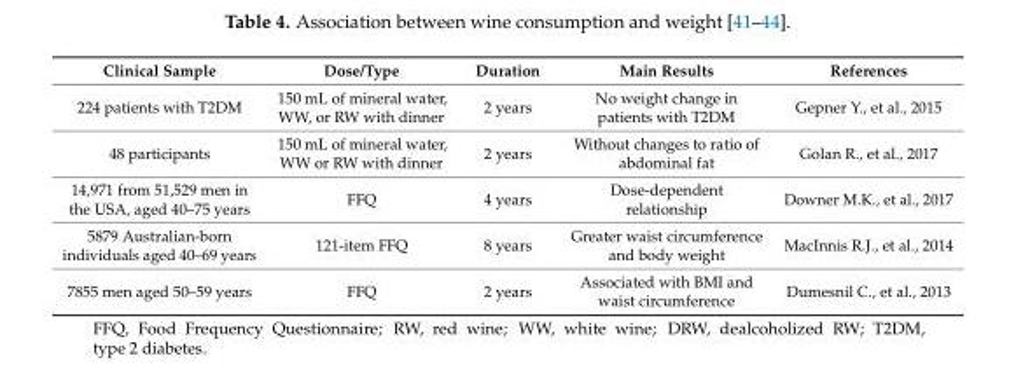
<table><thead><tr><td>Clinical Sample</td><td>Dose/Type</td><td>Duration</td><td>Main Results</td><td>References</td></tr></thead><tbody><tr><td>224 patients with T2DM</td><td>150 mL of mineral water, WW, or RW with dinner</td><td>2 years</td><td>No weight change in patients with T2DM</td><td>Gepner Y., et al., 2015</td></tr><tr><td>48 participants</td><td>150 mL of mineral water, WW or RW with dinner</td><td>2 years</td><td>Without changes to ratio of abdominal fat</td><td>Golan R., et al., 2017</td></tr><tr><td>14,971 from 51,529 men in the USA, aged 40–75 years</td><td>FFQ</td><td>4 years</td><td>Dose-dependent relationship</td><td>Downer M.K., et al., 2017</td></tr><tr><td>5879 Australian-born individuals aged 40–69 years</td><td>121-item FFQ</td><td>8 years</td><td>Greater waist circumference and body weight</td><td>MacInnis R.J., et al., 2014</td></tr><tr><td>7855 men aged 50–59 years</td><td>FFQ</td><td>2 years</td><td>Associated with BMI and waist circumference</td><td>Dumesnil C., et al., 2013</td></tr></tbody></table>